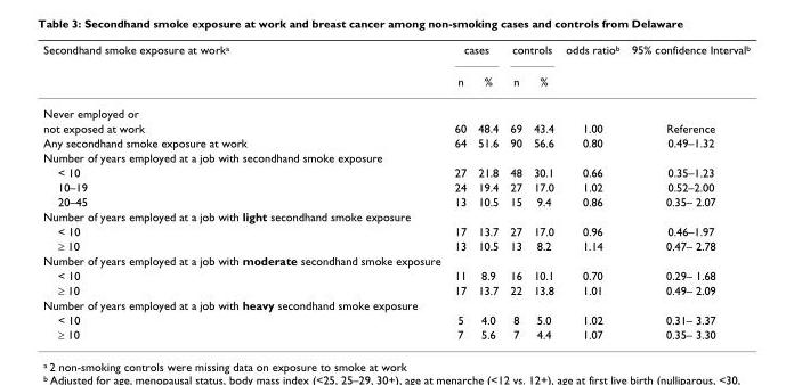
<table><thead><tr><td rowspan="2">Secondhand smoke exposure at work<sup>a</sup></td><td colspan="2">cases</td><td colspan="2">controls</td><td rowspan="2">odds ratio<sup>b</sup></td><td rowspan="2">95% confidence Interval<sup>b</sup></td></tr><tr><td>n</td><td>%</td><td>n</td><td>%</td></tr></thead><tbody><tr><td colspan="7">Never employed or</td></tr><tr><td>not exposed at work</td><td>60</td><td>48.4</td><td>69</td><td>43.4</td><td>1.00</td><td>Reference</td></tr><tr><td>Any secondhand smoke exposure at work</td><td>64</td><td>51.6</td><td>90</td><td>56.6</td><td>0.80</td><td>0.49–1.32</td></tr><tr><td colspan="7">Number of years employed at a job with secondhand smoke exposure</td></tr><tr><td>&lt; 10</td><td>27</td><td>21.8</td><td>48</td><td>30.1</td><td>0.66</td><td>0.35–1.23</td></tr><tr><td>10–19</td><td>24</td><td>19.4</td><td>27</td><td>17.0</td><td>1.02</td><td>0.52–2.00</td></tr><tr><td>20–45</td><td>13</td><td>10.5</td><td>15</td><td>9.4</td><td>0.86</td><td>0.35– 2.07</td></tr><tr><td colspan="7">Number of years employed at a job with light secondhand smoke exposure</td></tr><tr><td>&lt; 10</td><td>17</td><td>13.7</td><td>27</td><td>17.0</td><td>0.96</td><td>0.46–1.97</td></tr><tr><td>≥ 10</td><td>13</td><td>10.5</td><td>13</td><td>8.2</td><td>1.14</td><td>0.47– 2.78</td></tr><tr><td colspan="7">Number of years employed at a job with moderate secondhand smoke exposure</td></tr><tr><td>&lt; 10</td><td>11</td><td>8.9</td><td>16</td><td>10.1</td><td>0.70</td><td>0.29– 1.68</td></tr><tr><td>≥ 10</td><td>17</td><td>13.7</td><td>22</td><td>13.8</td><td>1.01</td><td>0.49– 2.09</td></tr><tr><td colspan="7">Number of years employed at a job with heavy secondhand smoke exposure</td></tr><tr><td>&lt; 10</td><td>5</td><td>4.0</td><td>8</td><td>5.0</td><td>1.02</td><td>0.31– 3.37</td></tr><tr><td>≥ 10</td><td>7</td><td>5.6</td><td>7</td><td>4.4</td><td>1.07</td><td>0.35– 3.30</td></tr></tbody></table>